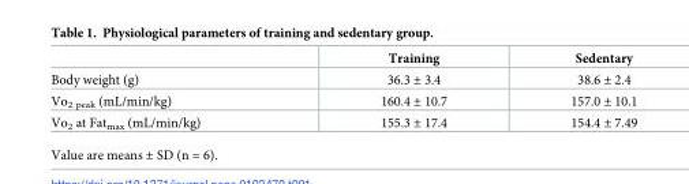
<table><thead><tr><td></td><td>Training</td><td>Sedentary</td></tr></thead><tbody><tr><td>Body weight (g)</td><td>36.3 ± 3.4</td><td>38.6 ± 2.4</td></tr><tr><td>Vo<sub>2 peak</sub> (mL/min/kg)</td><td>160.4 ± 10.7</td><td>157.0 ± 10.1</td></tr><tr><td>Vo<sub>2</sub> at Fat<sub>max</sub> (mL/min/kg)</td><td>155.3 ± 17.4</td><td>154.4 ± 7.49</td></tr></tbody></table>